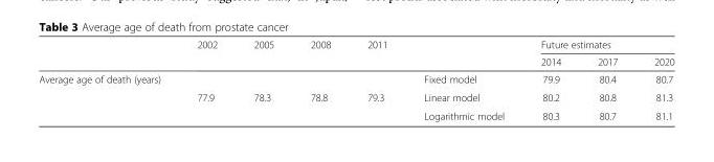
<table><thead><tr><td rowspan="2"></td><td rowspan="2">2002</td><td rowspan="2">2005</td><td rowspan="2">2008</td><td rowspan="2">2011</td><td rowspan="2"></td><td colspan="3">Future estimates</td></tr><tr><td>2014</td><td>2017</td><td>2020</td></tr></thead><tbody><tr><td rowspan="3">Average age of death (years)</td><td></td><td></td><td></td><td></td><td>Fixed model</td><td>79.9</td><td>80.4</td><td>80.7</td></tr><tr><td>77.9</td><td>78.3</td><td>78.8</td><td>79.3</td><td>Linear model</td><td>80.2</td><td>80.8</td><td>81.3</td></tr><tr><td></td><td></td><td></td><td></td><td>Logarithmic model</td><td>80.3</td><td>80.7</td><td>81.1</td></tr></tbody></table>